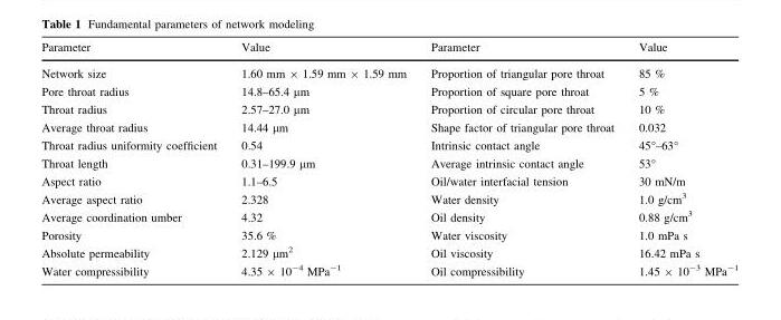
<table><thead><tr><td>Parameter</td><td>Value</td><td>Parameter</td><td>Value</td></tr></thead><tbody><tr><td>Network size</td><td>1.60 mm × 1.59 mm × 1.59 mm</td><td>Proportion of triangular pore throat</td><td>85 %</td></tr><tr><td>Pore throat radius</td><td>14.8–65.4 μm</td><td>Proportion of square pore throat</td><td>5 %</td></tr><tr><td>Throat radius</td><td>2.57–27.0 μm</td><td>Proportion of circular pore throat</td><td>10 %</td></tr><tr><td>Average throat radius</td><td>14.44 μm</td><td>Shape factor of triangular pore throat</td><td>0.032</td></tr><tr><td>Throat radius uniformity coefficient</td><td>0.54</td><td>Intrinsic contact angle</td><td>45°–63°</td></tr><tr><td>Throat length</td><td>0.31–199.9 μm</td><td>Average intrinsic contact angle</td><td>53°</td></tr><tr><td>Aspect ratio</td><td>1.1–6.5</td><td>Oil/water interfacial tension</td><td>30 mN/m</td></tr><tr><td>Average aspect ratio</td><td>2.328</td><td>Water density</td><td>1.0 g/cm<sup>3</sup></td></tr><tr><td>Average coordination umber</td><td>4.32</td><td>Oil density</td><td>0.88 g/cm<sup>3</sup></td></tr><tr><td>Porosity</td><td>35.6 %</td><td>Water viscosity</td><td>1.0 mPa s</td></tr><tr><td>Absolute permeability</td><td>2.129 μm<sup>2</sup></td><td>Oil viscosity</td><td>16.42 mPa s</td></tr><tr><td>Water compressibility</td><td>4.35 × 10<sup>-4</sup> MPa<sup>-1</sup></td><td>Oil compressibility</td><td>1.45 × 10<sup>-3</sup> MPa<sup>-1</sup></td></tr></tbody></table>